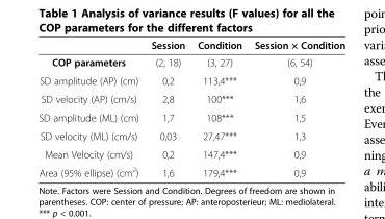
<table><thead><tr><td></td><td>Session</td><td>Condition</td><td>Session × Condition</td></tr></thead><tbody><tr><td>COP parameters</td><td>(2, 18)</td><td>(3, 27)</td><td>(6, 54)</td></tr><tr><td>SD amplitude (AP) (cm)</td><td>0,2</td><td>113,4***</td><td>0,9</td></tr><tr><td>SD velocity (AP) (cm/s)</td><td>2,8</td><td>100***</td><td>1,6</td></tr><tr><td>SD amplitude (ML) (cm)</td><td>1,7</td><td>108***</td><td>1,5</td></tr><tr><td>SD velocity (ML) (cm/s)</td><td>0,03</td><td>27,47***</td><td>1,3</td></tr><tr><td>Mean Velocity (cm/s)</td><td>0,2</td><td>147,4***</td><td>0,9</td></tr><tr><td>Area (95% ellipse) (cm<sup>2</sup>)</td><td>1,6</td><td>179,4***</td><td>0,9</td></tr></tbody></table>